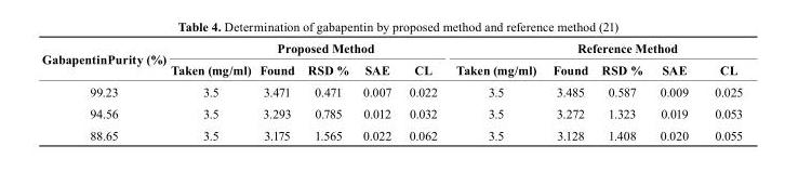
<table><thead><tr><td rowspan="2">GabapentinPurity (%)</td><td colspan="5">Proposed Method</td><td colspan="5">reference Method</td></tr><tr><td>Taken (mg/ml)</td><td>Found</td><td>rsD %</td><td>sAE</td><td>cL</td><td>Taken (mg/ml)</td><td>Found</td><td>rsD %</td><td>sAE</td><td>cL</td></tr></thead><tbody><tr><td>99.23</td><td>3.5</td><td>3.471</td><td>0.471</td><td>0.007</td><td>0.022</td><td>3.5</td><td>3.485</td><td>0.587</td><td>0.009</td><td>0.025</td></tr><tr><td>94.56</td><td>3.5</td><td>3.293</td><td>0.785</td><td>0.012</td><td>0.032</td><td>3.5</td><td>3.272</td><td>1.323</td><td>0.019</td><td>0.053</td></tr><tr><td>88.65</td><td>3.5</td><td>3.175</td><td>1.565</td><td>0.022</td><td>0.062</td><td>3.5</td><td>3.128</td><td>1.408</td><td>0.020</td><td>0.055</td></tr></tbody></table>